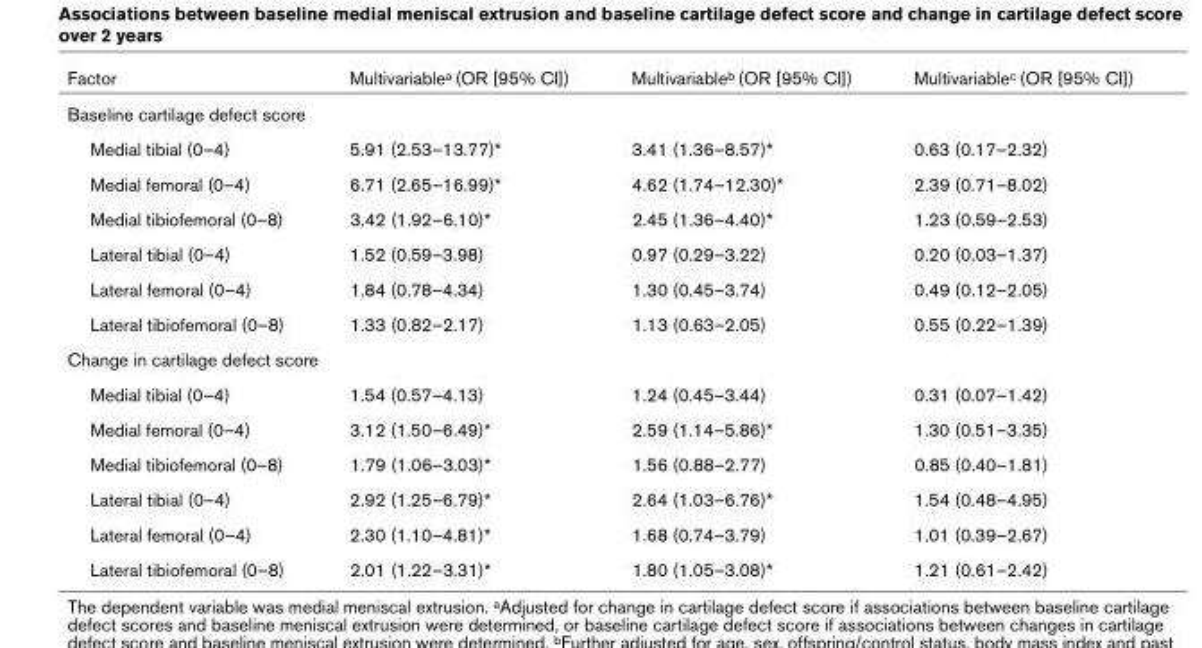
<table><thead><tr><td>Factor</td><td>Multivariable<sup>a</sup> (OR [95% CI])</td><td>Multivariable<sup>b</sup> (OR [95% CI])</td><td>Multivariable<sup>c</sup> (OR [95% CI])</td></tr></thead><tbody><tr><td colspan="4">Baseline cartilage defect score</td></tr><tr><td>Medial tibial (0–4)</td><td>5.91 (2.53–13.77)*</td><td>3.41 (1.36–8.57)*</td><td>0.63 (0.17–2.32)</td></tr><tr><td>Medial femoral (0–4)</td><td>6.71 (2.65–16.99)*</td><td>4.62 (1.74–12.30)*</td><td>2.39 (0.71–8.02)</td></tr><tr><td>Medial tibiofemoral (0–8)</td><td>3.42 (1.92–6.10)*</td><td>2.45 (1.36–4.40)*</td><td>1.23 (0.59–2.53)</td></tr><tr><td>Lateral tibial (0–4)</td><td>1.52 (0.59–3.98)</td><td>0.97 (0.29–3.22)</td><td>0.20 (0.03–1.37)</td></tr><tr><td>Lateral femoral (0–4)</td><td>1.84 (0.78–4.34)</td><td>1.30 (0.45–3.74)</td><td>0.49 (0.12–2.05)</td></tr><tr><td>Lateral tibiofemoral (0–8)</td><td>1.33 (0.82–2.17)</td><td>1.13 (0.63–2.05)</td><td>0.55 (0.22–1.39)</td></tr><tr><td colspan="4">Change in cartilage defect score</td></tr><tr><td>Medial tibial (0–4)</td><td>1.54 (0.57–4.13)</td><td>1.24 (0.45–3.44)</td><td>0.31 (0.07–1.42)</td></tr><tr><td>Medial femoral (0–4)</td><td>3.12 (1.50–6.49)*</td><td>2.59 (1.14–5.86)*</td><td>1.30 (0.51–3.35)</td></tr><tr><td>Medial tibiofemoral (0–8)</td><td>1.79 (1.06–3.03)*</td><td>1.56 (0.88–2.77)</td><td>0.85 (0.40–1.81)</td></tr><tr><td>Lateral tibial (0–4)</td><td>2.92 (1.25–6.79)*</td><td>2.64 (1.03–6.76)*</td><td>1.54 (0.48–4.95)</td></tr><tr><td>Lateral femoral (0–4)</td><td>2.30 (1.10–4.81)*</td><td>1.68 (0.74–3.79)</td><td>1.01 (0.39–2.67)</td></tr><tr><td>Lateral tibiofemoral (0–8)</td><td>2.01 (1.22–3.31)*</td><td>1.80 (1.05–3.08)*</td><td>1.21 (0.61–2.42)</td></tr></tbody></table>